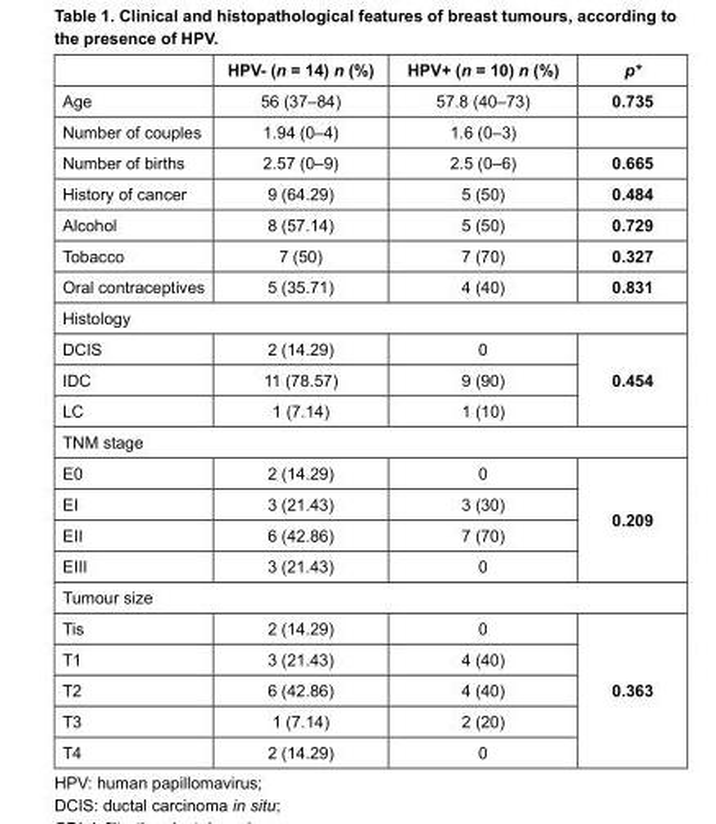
<table><thead><tr><td></td><td>HPV- (n = 14) n (%)</td><td>HPV+ (n = 10) n (%)</td><td>p*</td></tr></thead><tbody><tr><td>Age</td><td>56 (37–84)</td><td>57.8 (40–73)</td><td>0.735</td></tr><tr><td>Number of couples</td><td>1.94 (0–4)</td><td>1.6 (0–3)</td><td></td></tr><tr><td>Number of births</td><td>2.57 (0–9)</td><td>2.5 (0–6)</td><td>0.665</td></tr><tr><td>History of cancer</td><td>9 (64.29)</td><td>5 (50)</td><td>0.484</td></tr><tr><td>Alcohol</td><td>8 (57.14)</td><td>5 (50)</td><td>0.729</td></tr><tr><td>Tobacco</td><td>7 (50)</td><td>7 (70)</td><td>0.327</td></tr><tr><td>Oral contraceptives</td><td>5 (35.71)</td><td>4 (40)</td><td>0.831</td></tr><tr><td colspan="4">Histology</td></tr><tr><td>DCIS</td><td>2 (14.29)</td><td>0</td><td rowspan="3">0.454</td></tr><tr><td>IDC</td><td>11 (78.57)</td><td>9 (90)</td></tr><tr><td>LC</td><td>1 (7.14)</td><td>1 (10)</td></tr><tr><td colspan="4">TNM stage</td></tr><tr><td>E0</td><td>2 (14.29)</td><td>0</td><td rowspan="4">0.209</td></tr><tr><td>EI</td><td>3 (21.43)</td><td>3 (30)</td></tr><tr><td>EII</td><td>6 (42.86)</td><td>7 (70)</td></tr><tr><td>EIII</td><td>3 (21.43)</td><td>0</td></tr><tr><td colspan="4">Tumour size</td></tr><tr><td>Tis</td><td>2 (14.29)</td><td>0</td><td rowspan="5">0.363</td></tr><tr><td>T1</td><td>3 (21.43)</td><td>4 (40)</td></tr><tr><td>T2</td><td>6 (42.86)</td><td>4 (40)</td></tr><tr><td>T3</td><td>1 (7.14)</td><td>2 (20)</td></tr><tr><td>T4</td><td>2 (14.29)</td><td>0</td></tr></tbody></table>